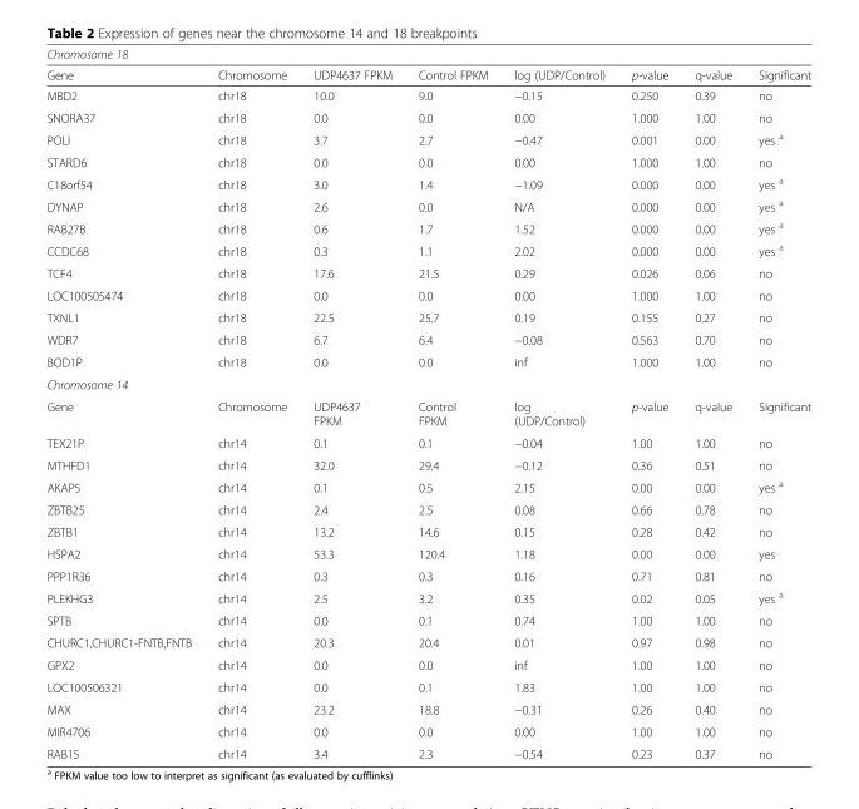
<table><thead><tr><td colspan="8">Chromosome 18</td></tr><tr><td>Gene</td><td>Chromosome</td><td>UDP4637 FPKM</td><td>Control FPKM</td><td>log (UDP/Control)</td><td>p-value</td><td>q-value</td><td>Significant</td></tr></thead><tbody><tr><td>MBD2</td><td>chr18</td><td>10.0</td><td>9.0</td><td>−0.15</td><td>0.250</td><td>0.39</td><td>no</td></tr><tr><td>SNORA37</td><td>chr18</td><td>0.0</td><td>0.0</td><td>0.00</td><td>1.000</td><td>1.00</td><td>no</td></tr><tr><td>POLI</td><td>chr18</td><td>3.7</td><td>2.7</td><td>−0.47</td><td>0.001</td><td>0.00</td><td>yes <sup>a</sup></td></tr><tr><td>STARD6</td><td>chr18</td><td>0.0</td><td>0.0</td><td>0.00</td><td>1.000</td><td>1.00</td><td>no</td></tr><tr><td>C18orf54</td><td>chr18</td><td>3.0</td><td>1.4</td><td>−1.09</td><td>0.000</td><td>0.00</td><td>yes <sup>a</sup></td></tr><tr><td>DYNAP</td><td>chr18</td><td>2.6</td><td>0.0</td><td>N/A</td><td>0.000</td><td>0.00</td><td>yes <sup>a</sup></td></tr><tr><td>RAB27B</td><td>chr18</td><td>0.6</td><td>1.7</td><td>1.52</td><td>0.000</td><td>0.00</td><td>yes <sup>a</sup></td></tr><tr><td>CCDC68</td><td>chr18</td><td>0.3</td><td>1.1</td><td>2.02</td><td>0.000</td><td>0.00</td><td>yes <sup>a</sup></td></tr><tr><td>TCF4</td><td>chr18</td><td>17.6</td><td>21.5</td><td>0.29</td><td>0.026</td><td>0.06</td><td>no</td></tr><tr><td>LOC100505474</td><td>chr18</td><td>0.0</td><td>0.0</td><td>0.00</td><td>1.000</td><td>1.00</td><td>no</td></tr><tr><td>TXNL1</td><td>chr18</td><td>22.5</td><td>25.7</td><td>0.19</td><td>0.155</td><td>0.27</td><td>no</td></tr><tr><td>WDR7</td><td>chr18</td><td>6.7</td><td>6.4</td><td>−0.08</td><td>0.563</td><td>0.70</td><td>no</td></tr><tr><td>BOD1P</td><td>chr18</td><td>0.0</td><td>0.0</td><td>inf</td><td>1.000</td><td>1.00</td><td>no</td></tr><tr><td colspan="8">Chromosome 14</td></tr><tr><td>Gene</td><td>Chromosome</td><td>UDP4637 FPKM</td><td>Control FPKM</td><td>log (UDP/Control)</td><td>p-value</td><td>q-value</td><td>Significant</td></tr><tr><td>TEX21P</td><td>chr14</td><td>0.1</td><td>0.1</td><td>−0.04</td><td>1.00</td><td>1.00</td><td>no</td></tr><tr><td>MTHFD1</td><td>chr14</td><td>32.0</td><td>29.4</td><td>−0.12</td><td>0.36</td><td>0.51</td><td>no</td></tr><tr><td>AKAP5</td><td>chr14</td><td>0.1</td><td>0.5</td><td>2.15</td><td>0.00</td><td>0.00</td><td>yes <sup>a</sup></td></tr><tr><td>ZBTB25</td><td>chr14</td><td>2.4</td><td>2.5</td><td>0.08</td><td>0.66</td><td>0.78</td><td>no</td></tr><tr><td>ZBTB1</td><td>chr14</td><td>13.2</td><td>14.6</td><td>0.15</td><td>0.28</td><td>0.42</td><td>no</td></tr><tr><td>HSPA2</td><td>chr14</td><td>53.3</td><td>120.4</td><td>1.18</td><td>0.00</td><td>0.00</td><td>yes</td></tr><tr><td>PPP1R36</td><td>chr14</td><td>0.3</td><td>0.3</td><td>0.16</td><td>0.71</td><td>0.81</td><td>no</td></tr><tr><td>PLEKHG3</td><td>chr14</td><td>2.5</td><td>3.2</td><td>0.35</td><td>0.02</td><td>0.05</td><td>yes <sup>a</sup></td></tr><tr><td>SPTB</td><td>chr14</td><td>0.0</td><td>0.1</td><td>0.74</td><td>1.00</td><td>1.00</td><td>no</td></tr><tr><td>CHURC1,CHURC1-FNTB,FNTB</td><td>chr14</td><td>20.3</td><td>20.4</td><td>0.01</td><td>0.97</td><td>0.98</td><td>no</td></tr><tr><td>GPX2</td><td>chr14</td><td>0.0</td><td>0.0</td><td>inf</td><td>1.00</td><td>1.00</td><td>no</td></tr><tr><td>LOC100506321</td><td>chr14</td><td>0.0</td><td>0.1</td><td>1.83</td><td>1.00</td><td>1.00</td><td>no</td></tr><tr><td>MAX</td><td>chr14</td><td>23.2</td><td>18.8</td><td>−0.31</td><td>0.26</td><td>0.40</td><td>no</td></tr><tr><td>MIR4706</td><td>chr14</td><td>0.0</td><td>0.0</td><td>0.00</td><td>1.00</td><td>1.00</td><td>no</td></tr><tr><td>RAB15</td><td>chr14</td><td>3.4</td><td>2.3</td><td>−0.54</td><td>0.23</td><td>0.37</td><td>no</td></tr></tbody></table>